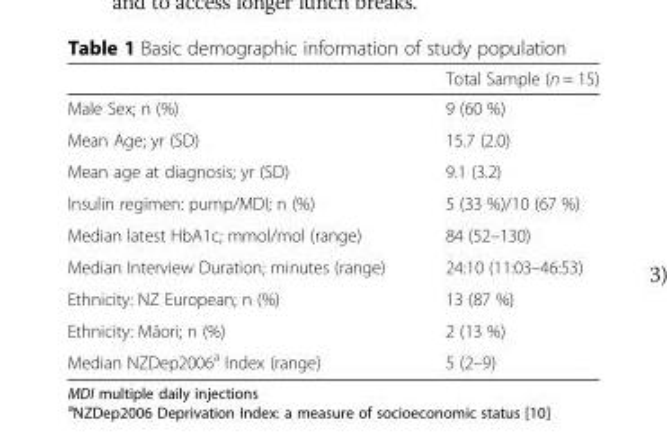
<table><thead><tr><td></td><td>Total Sample (n = 15)</td></tr></thead><tbody><tr><td>Male Sex; n (%)</td><td>9 (60 %)</td></tr><tr><td>Mean Age; yr (SD)</td><td>15.7 (2.0)</td></tr><tr><td>Mean age at diagnosis; yr (SD)</td><td>9.1 (3.2)</td></tr><tr><td>Insulin regimen: pump/MDI; n (%)</td><td>5 (33 %)/10 (67 %)</td></tr><tr><td>Median latest HbA1c; mmol/mol (range)</td><td>84 (52–130)</td></tr><tr><td>Median Interview Duration; minutes (range)</td><td>24:10 (11:03–46:53)</td></tr><tr><td>Ethnicity: NZ European; n (%)</td><td>13 (87 %)</td></tr><tr><td>Ethnicity: Māori; n (%)</td><td>2 (13 %)</td></tr><tr><td>Median NZDep2006<sup>a</sup> Index (range)</td><td>5 (2–9)</td></tr></tbody></table>